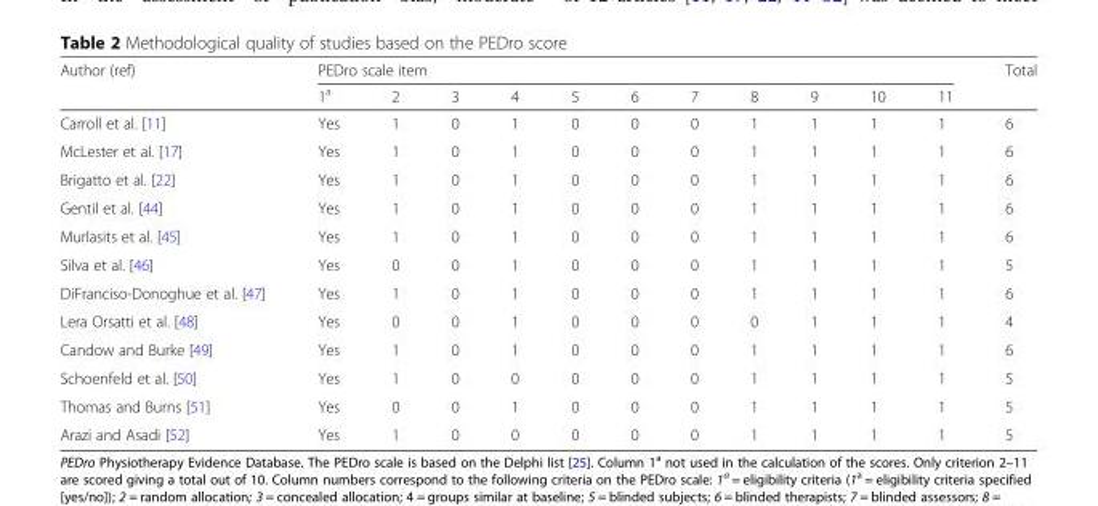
<table><thead><tr><td rowspan="2">Author (ref)</td><td colspan="11">PEDro scale item</td><td rowspan="2">Total</td></tr><tr><td>1<sup>a</sup></td><td>2</td><td>3</td><td>4</td><td>5</td><td>6</td><td>7</td><td>8</td><td>9</td><td>10</td><td>11</td></tr></thead><tbody><tr><td>Carroll et al. [11]</td><td>Yes</td><td>1</td><td>0</td><td>1</td><td>0</td><td>0</td><td>0</td><td>1</td><td>1</td><td>1</td><td>1</td><td>6</td></tr><tr><td>McLester et al. [17]</td><td>Yes</td><td>1</td><td>0</td><td>1</td><td>0</td><td>0</td><td>0</td><td>1</td><td>1</td><td>1</td><td>1</td><td>6</td></tr><tr><td>Brigatto et al. [22]</td><td>Yes</td><td>1</td><td>0</td><td>1</td><td>0</td><td>0</td><td>0</td><td>1</td><td>1</td><td>1</td><td>1</td><td>6</td></tr><tr><td>Gentil et al. [44]</td><td>Yes</td><td>1</td><td>0</td><td>1</td><td>0</td><td>0</td><td>0</td><td>1</td><td>1</td><td>1</td><td>1</td><td>6</td></tr><tr><td>Murlasits et al. [45]</td><td>Yes</td><td>1</td><td>0</td><td>1</td><td>0</td><td>0</td><td>0</td><td>1</td><td>1</td><td>1</td><td>1</td><td>6</td></tr><tr><td>Silva et al. [46]</td><td>Yes</td><td>0</td><td>0</td><td>1</td><td>0</td><td>0</td><td>0</td><td>1</td><td>1</td><td>1</td><td>1</td><td>5</td></tr><tr><td>DiFranciso-Donoghue et al. [47]</td><td>Yes</td><td>1</td><td>0</td><td>1</td><td>0</td><td>0</td><td>0</td><td>1</td><td>1</td><td>1</td><td>1</td><td>6</td></tr><tr><td>Lera Orsatti et al. [48]</td><td>Yes</td><td>0</td><td>0</td><td>1</td><td>0</td><td>0</td><td>0</td><td>0</td><td>1</td><td>1</td><td>1</td><td>4</td></tr><tr><td>Candow and Burke [49]</td><td>Yes</td><td>1</td><td>0</td><td>1</td><td>0</td><td>0</td><td>0</td><td>1</td><td>1</td><td>1</td><td>1</td><td>6</td></tr><tr><td>Schoenfeld et al. [50]</td><td>Yes</td><td>1</td><td>0</td><td>0</td><td>0</td><td>0</td><td>0</td><td>1</td><td>1</td><td>1</td><td>1</td><td>5</td></tr><tr><td>Thomas and Burns [51]</td><td>Yes</td><td>0</td><td>0</td><td>1</td><td>0</td><td>0</td><td>0</td><td>1</td><td>1</td><td>1</td><td>1</td><td>5</td></tr><tr><td>Arazi and Asadi [52]</td><td>Yes</td><td>1</td><td>0</td><td>0</td><td>0</td><td>0</td><td>0</td><td>1</td><td>1</td><td>1</td><td>1</td><td>5</td></tr></tbody></table>